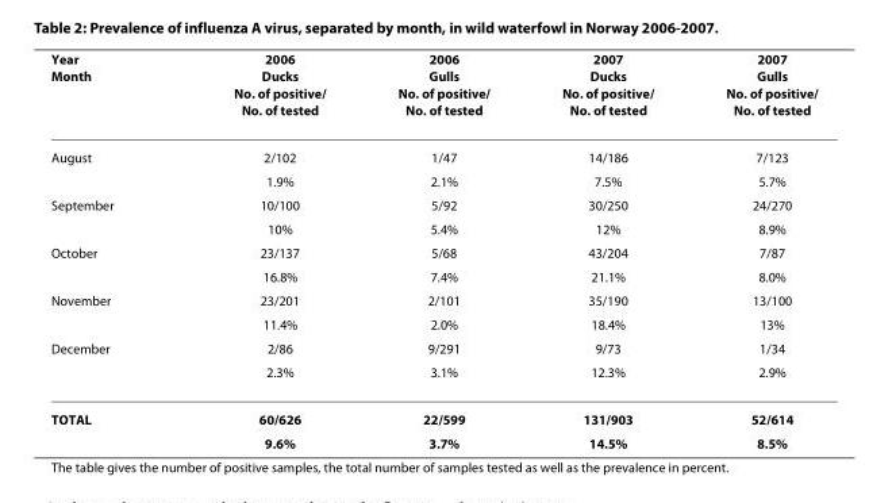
<table><thead><tr><td>Year Month</td><td>2006 Ducks No. of positive/ No. of tested</td><td>2006 Gulls No. of positive/ No. of tested</td><td>2007 Ducks No. of positive/ No. of tested</td><td>2007 Gulls No. of positive/ No. of tested</td></tr></thead><tbody><tr><td rowspan="2">August</td><td>2/102</td><td>1/47</td><td>14/186</td><td>7/123</td></tr><tr><td>1.9%</td><td>2.1%</td><td>7.5%</td><td>5.7%</td></tr><tr><td rowspan="2">September</td><td>10/100</td><td>5/92</td><td>30/250</td><td>24/270</td></tr><tr><td>10%</td><td>5.4%</td><td>12%</td><td>8.9%</td></tr><tr><td rowspan="2">October</td><td>23/137</td><td>5/68</td><td>43/204</td><td>7/87</td></tr><tr><td>16.8%</td><td>7.4%</td><td>21.1%</td><td>8.0%</td></tr><tr><td rowspan="2">November</td><td>23/201</td><td>2/101</td><td>35/190</td><td>13/100</td></tr><tr><td>11.4%</td><td>2.0%</td><td>18.4%</td><td>13%</td></tr><tr><td rowspan="2">December</td><td>2/86</td><td>9/291</td><td>9/73</td><td>1/34</td></tr><tr><td>2.3%</td><td>3.1%</td><td>12.3%</td><td>2.9%</td></tr><tr><td rowspan="2">TOTAL</td><td>60/626</td><td>22/599</td><td>131/903</td><td>52/614</td></tr><tr><td>9.6%</td><td>3.7%</td><td>14.5%</td><td>8.5%</td></tr></tbody></table>